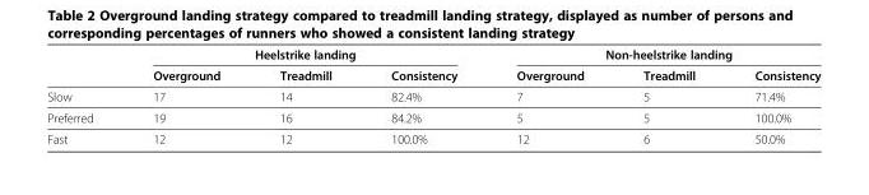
<table><thead><tr><td rowspan="2"></td><td colspan="3">Heelstrike landing</td><td colspan="3">Non-heelstrike landing</td></tr><tr><td>Overground</td><td>Treadmill</td><td>Consistency</td><td>Overground</td><td>Treadmill</td><td>Consistency</td></tr></thead><tbody><tr><td>Slow</td><td>17</td><td>14</td><td>82.4%</td><td>7</td><td>5</td><td>71.4%</td></tr><tr><td>Preferred</td><td>19</td><td>16</td><td>84.2%</td><td>5</td><td>5</td><td>100.0%</td></tr><tr><td>Fast</td><td>12</td><td>12</td><td>100.0%</td><td>12</td><td>6</td><td>50.0%</td></tr></tbody></table>